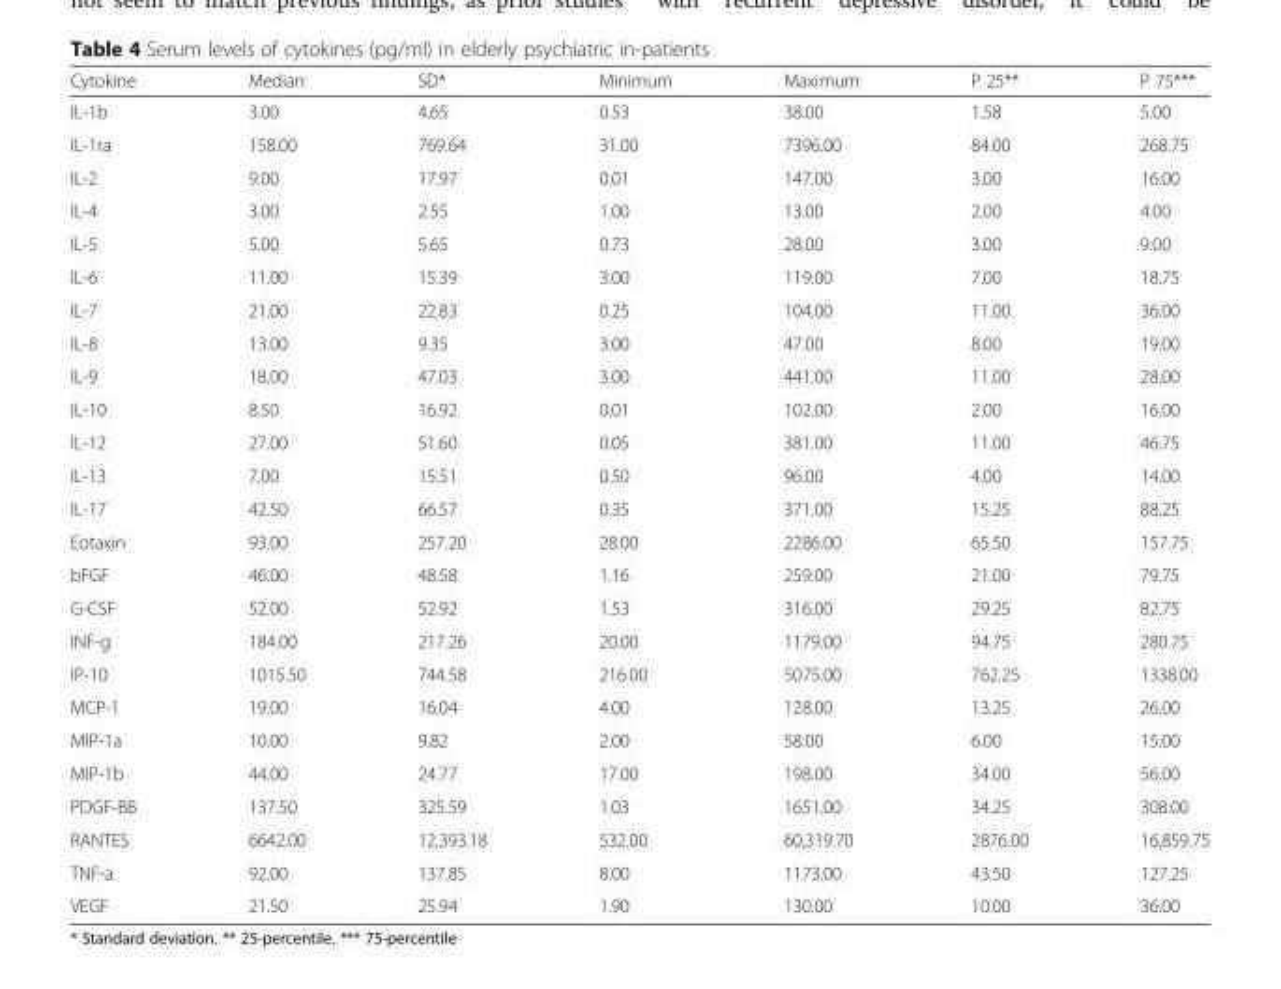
<table><thead><tr><td>Cytokine</td><td>Median</td><td>SD*</td><td>Minimum</td><td>Maximum</td><td>P 25**</td><td>P 75***</td></tr></thead><tbody><tr><td>IL-1b</td><td>3.00</td><td>4.65</td><td>0.53</td><td>38.00</td><td>1.58</td><td>5.00</td></tr><tr><td>IL-1ra</td><td>158.00</td><td>769.64</td><td>31.00</td><td>7396.00</td><td>84.00</td><td>268.75</td></tr><tr><td>IL-2</td><td>9.00</td><td>17.97</td><td>0.01</td><td>147.00</td><td>3.00</td><td>16.00</td></tr><tr><td>IL-4</td><td>3.00</td><td>2.55</td><td>1.00</td><td>13.00</td><td>2.00</td><td>4.00</td></tr><tr><td>IL-5</td><td>5.00</td><td>5.65</td><td>0.73</td><td>28.00</td><td>3.00</td><td>9.00</td></tr><tr><td>IL-6</td><td>11.00</td><td>15.39</td><td>3.00</td><td>119.00</td><td>7.00</td><td>18.75</td></tr><tr><td>IL-7</td><td>21.00</td><td>22.83</td><td>0.25</td><td>104.00</td><td>11.00</td><td>36.00</td></tr><tr><td>IL-8</td><td>13.00</td><td>9.35</td><td>3.00</td><td>47.00</td><td>8.00</td><td>19.00</td></tr><tr><td>IL-9</td><td>18.00</td><td>47.03</td><td>3.00</td><td>441.00</td><td>11.00</td><td>28.00</td></tr><tr><td>IL-10</td><td>8.50</td><td>16.92</td><td>0.01</td><td>102.00</td><td>2.00</td><td>16.00</td></tr><tr><td>IL-12</td><td>27.00</td><td>51.60</td><td>0.05</td><td>381.00</td><td>11.00</td><td>46.75</td></tr><tr><td>IL-13</td><td>7.00</td><td>15.51</td><td>0.50</td><td>96.00</td><td>4.00</td><td>14.00</td></tr><tr><td>IL-17</td><td>42.50</td><td>66.57</td><td>0.35</td><td>371.00</td><td>15.25</td><td>88.25</td></tr><tr><td>Eotaxin</td><td>93.00</td><td>257.20</td><td>28.00</td><td>2286.00</td><td>65.50</td><td>157.75</td></tr><tr><td>bFGF</td><td>46.00</td><td>48.58</td><td>1.16</td><td>259.00</td><td>21.00</td><td>79.75</td></tr><tr><td>G-CSF</td><td>52.00</td><td>52.92</td><td>1.53</td><td>316.00</td><td>29.25</td><td>82.75</td></tr><tr><td>INF-g</td><td>184.00</td><td>217.26</td><td>20.00</td><td>1179.00</td><td>94.75</td><td>280.75</td></tr><tr><td>IP-10</td><td>1015.50</td><td>744.58</td><td>216.00</td><td>5075.00</td><td>762.25</td><td>1338.00</td></tr><tr><td>MCP-1</td><td>19.00</td><td>16.04</td><td>4.00</td><td>128.00</td><td>13.25</td><td>26.00</td></tr><tr><td>MIP-1a</td><td>10.00</td><td>9.82</td><td>2.00</td><td>58.00</td><td>6.00</td><td>15.00</td></tr><tr><td>MIP-1b</td><td>44.00</td><td>24.77</td><td>17.00</td><td>198.00</td><td>34.00</td><td>56.00</td></tr><tr><td>PDGF-BB</td><td>137.50</td><td>325.59</td><td>1.03</td><td>1651.00</td><td>34.25</td><td>308.00</td></tr><tr><td>RANTES</td><td>6642.00</td><td>12,393.18</td><td>532.00</td><td>60,319.70</td><td>2876.00</td><td>16,859.75</td></tr><tr><td>TNF-a</td><td>92.00</td><td>137.85</td><td>8.00</td><td>1173.00</td><td>43.50</td><td>127.25</td></tr><tr><td>VEGF</td><td>21.50</td><td>25.94</td><td>1.90</td><td>130.00</td><td>10.00</td><td>36.00</td></tr></tbody></table>